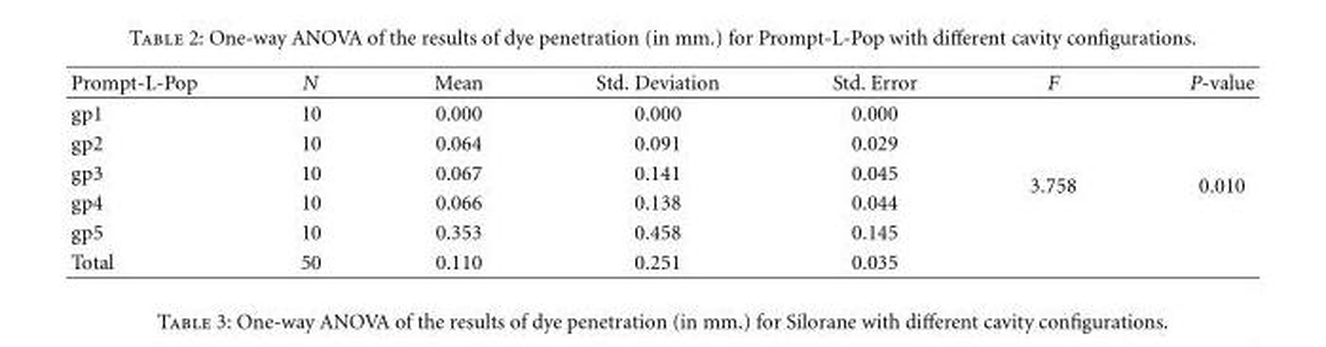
<table><thead><tr><td>Prompt-L-Pop</td><td>N</td><td>Mean</td><td>Std. Deviation</td><td>Std. Error</td><td>F</td><td>P-value</td></tr></thead><tbody><tr><td>gp1</td><td>10</td><td>0.000</td><td>0.000</td><td>0.000</td><td rowspan="6">3.758</td><td rowspan="6">0.010</td></tr><tr><td>gp2</td><td>10</td><td>0.064</td><td>0.091</td><td>0.029</td></tr><tr><td>gp3</td><td>10</td><td>0.067</td><td>0.141</td><td>0.045</td></tr><tr><td>gp4</td><td>10</td><td>0.066</td><td>0.138</td><td>0.044</td></tr><tr><td>gp5</td><td>10</td><td>0.353</td><td>0.458</td><td>0.145</td></tr><tr><td>Total</td><td>50</td><td>0.110</td><td>0.251</td><td>0.035</td></tr></tbody></table>